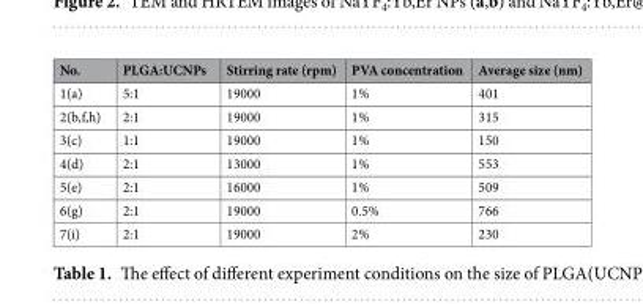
<table><thead><tr><td>No.</td><td>PLGA:UCNPs</td><td>Stirring rate (rpm)</td><td>PVA concentration</td><td>Average size (nm)</td></tr></thead><tbody><tr><td>1(a)</td><td>5:1</td><td>19000</td><td>1%</td><td>401</td></tr><tr><td>2(b,f,h)</td><td>2:1</td><td>19000</td><td>1%</td><td>315</td></tr><tr><td>3(c)</td><td>1:1</td><td>19000</td><td>1%</td><td>150</td></tr><tr><td>4(d)</td><td>2:1</td><td>13000</td><td>1%</td><td>553</td></tr><tr><td>5(e)</td><td>2:1</td><td>16000</td><td>1%</td><td>509</td></tr><tr><td>6(g)</td><td>2:1</td><td>19000</td><td>0.5%</td><td>766</td></tr><tr><td>7(i)</td><td>2:1</td><td>19000</td><td>2%</td><td>230</td></tr></tbody></table>